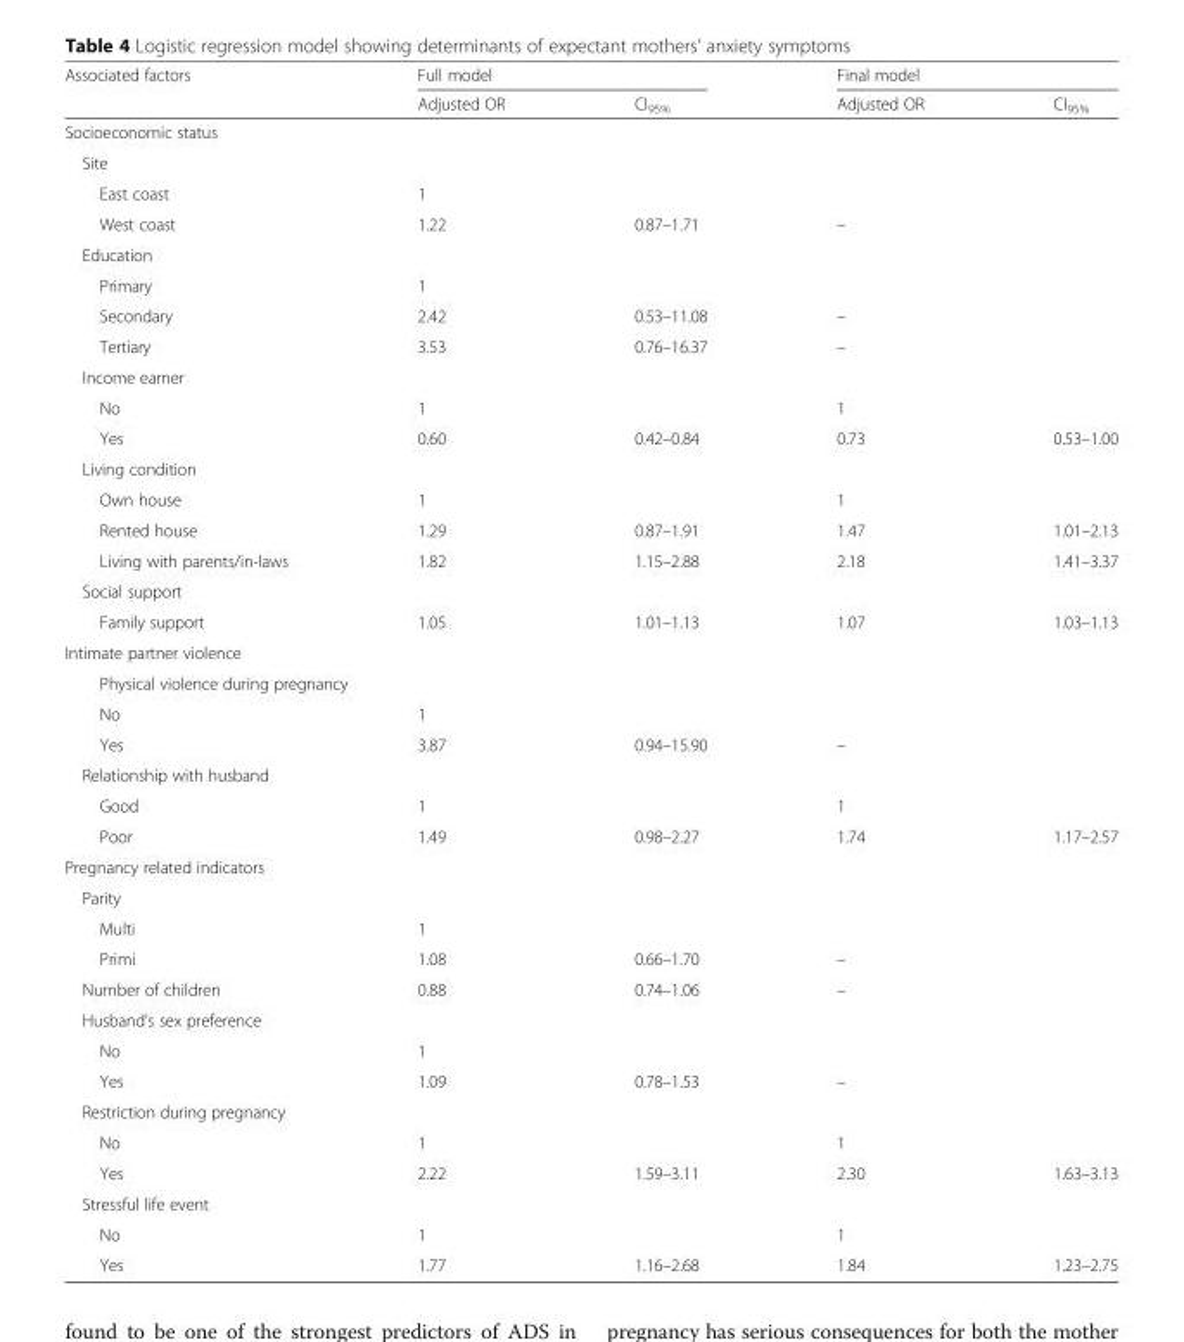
<table><thead><tr><td rowspan="2">Associated factors</td><td colspan="2">Full model</td><td colspan="2">Final model</td></tr><tr><td>Adjusted OR</td><td>CI<sub>95%</sub></td><td>Adjusted OR</td><td>CI<sub>95%</sub></td></tr></thead><tbody><tr><td colspan="5">Socioeconomic status</td></tr><tr><td colspan="5">Site</td></tr><tr><td>East coast</td><td>1</td><td></td><td></td><td></td></tr><tr><td>West coast</td><td>1.22</td><td>0.87–1.71</td><td>–</td><td></td></tr><tr><td colspan="5">Education</td></tr><tr><td>Primary</td><td>1</td><td></td><td></td><td></td></tr><tr><td>Secondary</td><td>2.42</td><td>0.53–11.08</td><td>–</td><td></td></tr><tr><td>Tertiary</td><td>3.53</td><td>0.76–16.37</td><td>–</td><td></td></tr><tr><td colspan="5">Income earner</td></tr><tr><td>No</td><td>1</td><td></td><td>1</td><td></td></tr><tr><td>Yes</td><td>0.60</td><td>0.42–0.84</td><td>0.73</td><td>0.53–1.00</td></tr><tr><td colspan="5">Living condition</td></tr><tr><td>Own house</td><td>1</td><td></td><td>1</td><td></td></tr><tr><td>Rented house</td><td>1.29</td><td>0.87–1.91</td><td>1.47</td><td>1.01–2.13</td></tr><tr><td>Living with parents/in-laws</td><td>1.82</td><td>1.15–2.88</td><td>2.18</td><td>1.41–3.37</td></tr><tr><td colspan="5">Social support</td></tr><tr><td>Family support</td><td>1.05</td><td>1.01–1.13</td><td>1.07</td><td>1.03–1.13</td></tr><tr><td colspan="5">Intimate partner violence</td></tr><tr><td colspan="5">Physical violence during pregnancy</td></tr><tr><td>No</td><td>1</td><td></td><td></td><td></td></tr><tr><td>Yes</td><td>3.87</td><td>0.94–15.90</td><td>–</td><td></td></tr><tr><td colspan="5">Relationship with husband</td></tr><tr><td>Good</td><td>1</td><td></td><td>1</td><td></td></tr><tr><td>Poor</td><td>1.49</td><td>0.98–2.27</td><td>1.74</td><td>1.17–2.57</td></tr><tr><td colspan="5">Pregnancy related indicators</td></tr><tr><td colspan="5">Parity</td></tr><tr><td>Multi</td><td>1</td><td></td><td></td><td></td></tr><tr><td>Primi</td><td>1.08</td><td>0.66–1.70</td><td>–</td><td></td></tr><tr><td>Number of children</td><td>0.88</td><td>0.74–1.06</td><td>–</td><td></td></tr><tr><td colspan="5">Husband’s sex preference</td></tr><tr><td>No</td><td>1</td><td></td><td></td><td></td></tr><tr><td>Yes</td><td>1.09</td><td>0.78–1.53</td><td>–</td><td></td></tr><tr><td colspan="5">Restriction during pregnancy</td></tr><tr><td>No</td><td>1</td><td></td><td>1</td><td></td></tr><tr><td>Yes</td><td>2.22</td><td>1.59–3.11</td><td>2.30</td><td>1.63–3.13</td></tr><tr><td colspan="5">Stressful life event</td></tr><tr><td>No</td><td>1</td><td></td><td>1</td><td></td></tr><tr><td>Yes</td><td>1.77</td><td>1.16–2.68</td><td>1.84</td><td>1.23–2.75</td></tr></tbody></table>